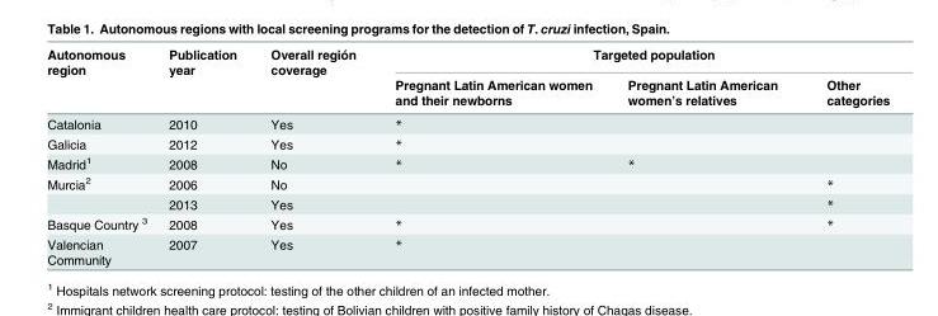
<table><thead><tr><td rowspan="2">Autonomous region</td><td rowspan="2">Publication year</td><td rowspan="2">Overall región coverage</td><td colspan="3">Targeted population</td></tr><tr><td>Pregnant Latin American women and their newborns</td><td>Pregnant Latin American women’s relatives</td><td>Other categories</td></tr></thead><tbody><tr><td>Catalonia</td><td>2010</td><td>Yes</td><td>*</td><td></td><td></td></tr><tr><td>Galicia</td><td>2012</td><td>Yes</td><td>*</td><td></td><td></td></tr><tr><td>Madrid<sup>1</sup></td><td>2008</td><td>No</td><td>*</td><td>*</td><td></td></tr><tr><td rowspan="2">Murcia<sup>2</sup></td><td>2006</td><td>No</td><td></td><td></td><td>*</td></tr><tr><td>2013</td><td>Yes</td><td></td><td></td><td>*</td></tr><tr><td>Basque Country <sup>3</sup></td><td>2008</td><td>Yes</td><td>*</td><td></td><td>*</td></tr><tr><td>Valencian Community</td><td>2007</td><td>Yes</td><td>*</td><td></td><td></td></tr></tbody></table>